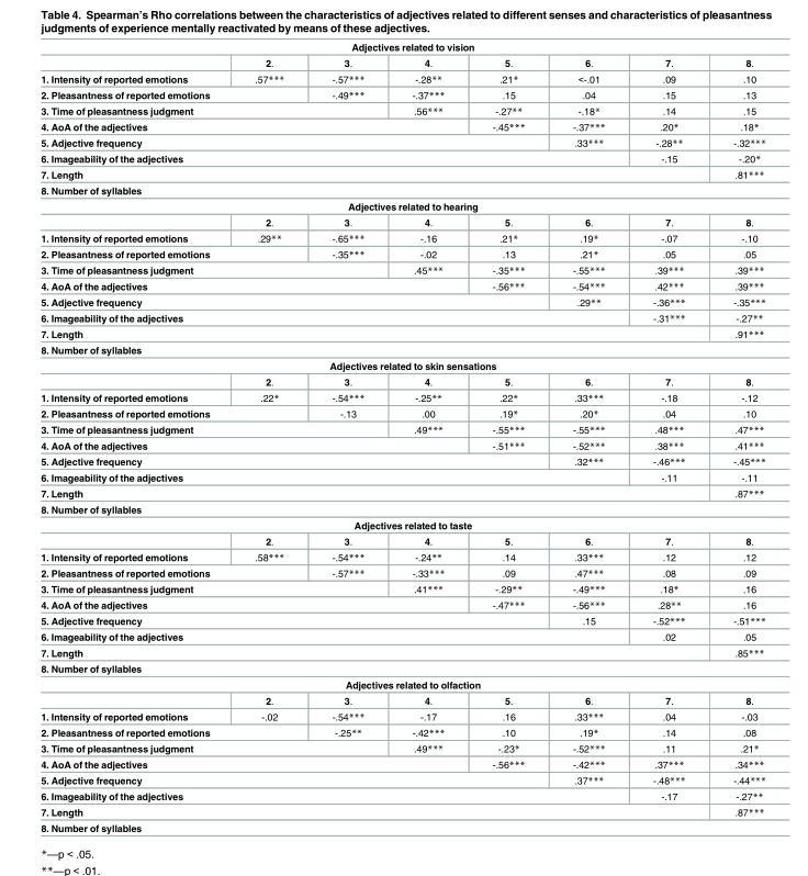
<table><tbody><tr><td colspan="8">Adjectives related to vision</td></tr><tr><td></td><td>2.</td><td>3.</td><td>4.</td><td>5.</td><td>6.</td><td>7.</td><td>8.</td></tr><tr><td>1. Intensity of reported emotions</td><td>.57***</td><td>-.57***</td><td>-.28**</td><td>.21*</td><td>&lt;-.01</td><td>.09</td><td>.10</td></tr><tr><td colspan="2">2. Pleasantness of reported emotions</td><td>-.49***</td><td>-.37***</td><td>.15</td><td>.04</td><td>.15</td><td>.13</td></tr><tr><td colspan="3">3. Time of pleasantness judgment</td><td>.56***</td><td>-.27**</td><td>-.18*</td><td>.14</td><td>.15</td></tr><tr><td colspan="4">4. AoA of the adjectives</td><td>-.45***</td><td>-.37***</td><td>.20*</td><td>.18*</td></tr><tr><td colspan="5">5. Adjective frequency</td><td>.33***</td><td>-.28**</td><td>-.32***</td></tr><tr><td colspan="6">6. Imageability of the adjectives</td><td>-.15</td><td>-.20*</td></tr><tr><td colspan="7">7. Length</td><td>.81***</td></tr><tr><td colspan="8">8. Number of syllables</td></tr><tr><td colspan="8">Adjectives related to hearing</td></tr><tr><td></td><td>2.</td><td>3.</td><td>4.</td><td>5.</td><td>6.</td><td>7.</td><td>8.</td></tr><tr><td>1. Intensity of reported emotions</td><td>.29**</td><td>-.65***</td><td>-.16</td><td>.21*</td><td>.19*</td><td>-.07</td><td>-.10</td></tr><tr><td colspan="2">2. Pleasantness of reported emotions</td><td>-.35***</td><td>-.02</td><td>.13</td><td>.21*</td><td>.05</td><td>.05</td></tr><tr><td colspan="3">3. Time of pleasantness judgment</td><td>.45***</td><td>-.35***</td><td>-.55***</td><td>.39***</td><td>.39***</td></tr><tr><td colspan="4">4. AoA of the adjectives</td><td>-.56***</td><td>-.54***</td><td>.42***</td><td>.39***</td></tr><tr><td colspan="5">5. Adjective frequency</td><td>.29**</td><td>-.36***</td><td>-.35***</td></tr><tr><td colspan="6">6. Imageability of the adjectives</td><td>-.31***</td><td>-.27**</td></tr><tr><td colspan="7">7. Length</td><td>.91***</td></tr><tr><td colspan="8">8. Number of syllables</td></tr><tr><td colspan="8">Adjectives related to skin sensations</td></tr><tr><td></td><td>2.</td><td>3.</td><td>4.</td><td>5.</td><td>6.</td><td>7.</td><td>8.</td></tr><tr><td>1. Intensity of reported emotions</td><td>.22*</td><td>-.54***</td><td>-.25**</td><td>.22*</td><td>.33***</td><td>-.18</td><td>-.12</td></tr><tr><td colspan="2">2. Pleasantness of reported emotions</td><td>-.13</td><td>.00</td><td>.19*</td><td>.20*</td><td>.04</td><td>.10</td></tr><tr><td colspan="3">3. Time of pleasantness judgment</td><td>.49***</td><td>-.55***</td><td>-.55***</td><td>.48***</td><td>.47***</td></tr><tr><td colspan="4">4. AoA of the adjectives</td><td>-.51***</td><td>-.52***</td><td>.38***</td><td>.41***</td></tr><tr><td colspan="5">5. Adjective frequency</td><td>.32***</td><td>-.46***</td><td>-.45***</td></tr><tr><td colspan="6">6. Imageability of the adjectives</td><td>-.11</td><td>-.11</td></tr><tr><td colspan="7">7. Length</td><td>.87***</td></tr><tr><td colspan="8">8. Number of syllables</td></tr><tr><td colspan="8">Adjectives related to taste</td></tr><tr><td></td><td>2.</td><td>3.</td><td>4.</td><td>5.</td><td>6.</td><td>7.</td><td>8.</td></tr><tr><td>1. Intensity of reported emotions</td><td>.58***</td><td>-.54***</td><td>-.24**</td><td>.14</td><td>.33***</td><td>.12</td><td>.12</td></tr><tr><td colspan="2">2. Pleasantness of reported emotions</td><td>-.57***</td><td>-.33***</td><td>.09</td><td>.47***</td><td>.08</td><td>.09</td></tr><tr><td colspan="3">3. Time of pleasantness judgment</td><td>.41***</td><td>-.29**</td><td>-.49***</td><td>.18*</td><td>.16</td></tr><tr><td colspan="4">4. AoA of the adjectives</td><td>-.47***</td><td>-.56***</td><td>.28**</td><td>.16</td></tr><tr><td colspan="5">5. Adjective frequency</td><td>.15</td><td>-.52***</td><td>-.51***</td></tr><tr><td colspan="6">6. Imageability of the adjectives</td><td>.02</td><td>.05</td></tr><tr><td colspan="7">7. Length</td><td>.85***</td></tr><tr><td colspan="8">8. Number of syllables</td></tr><tr><td colspan="8">Adjectives related to olfaction</td></tr><tr><td></td><td>2.</td><td>3.</td><td>4.</td><td>5.</td><td>6.</td><td>7.</td><td>8.</td></tr><tr><td>1. Intensity of reported emotions</td><td>-.02</td><td>-.54***</td><td>-.17</td><td>.16</td><td>.33***</td><td>.04</td><td>-.03</td></tr><tr><td colspan="2">2. Pleasantness of reported emotions</td><td>-.25**</td><td>-.42***</td><td>.10</td><td>.19*</td><td>.14</td><td>.08</td></tr><tr><td colspan="3">3. Time of pleasantness judgment</td><td>.49***</td><td>-.23*</td><td>-.52***</td><td>.11</td><td>.21*</td></tr><tr><td colspan="4">4. AoA of the adjectives</td><td>-.56***</td><td>-.42***</td><td>.37***</td><td>.34***</td></tr><tr><td colspan="5">5. Adjective frequency</td><td>.37***</td><td>-.48***</td><td>-.44***</td></tr><tr><td colspan="6">6. Imageability of the adjectives</td><td>-.17</td><td>-.27**</td></tr><tr><td colspan="7">7. Length</td><td>.87***</td></tr><tr><td colspan="8">8. Number of syllables</td></tr></tbody></table>